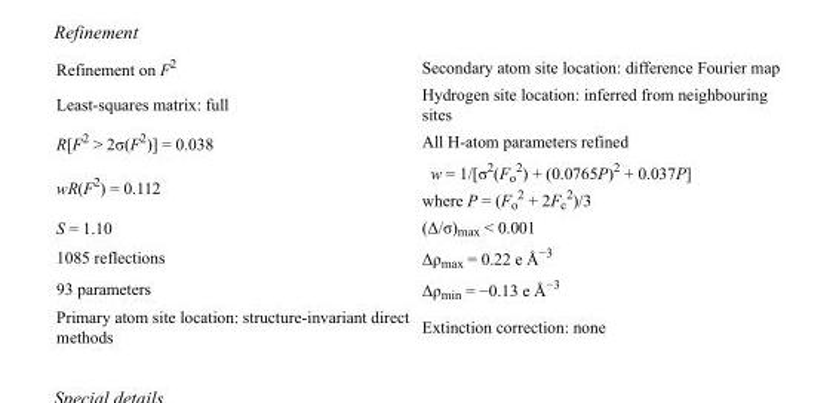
<table><tbody><tr><td>Refinement on F<sup>2</sup></td><td>Secondary atom site location: difference Fourier map</td></tr><tr><td>Least-squares matrix: full</td><td>Hydrogen site location: inferred from neighbouring sites</td></tr><tr><td>R[F<sup>2</sup> &gt; 2σ(F<sup>2</sup>)] = 0.038</td><td>All H-atom parameters refined</td></tr><tr><td>wR(F<sup>2</sup>) = 0.112</td><td>w = 1/[σ<sup>2</sup>(F<sub>o</sub> <sup>2</sup>) + (0.0765P)<sup>2</sup> + 0.037P] where P = (F<sub>o</sub> <sup>2</sup> + 2F<sub>c</sub> <sup>2</sup>)/3</td></tr><tr><td>S = 1.10</td><td>(Δ/σ)<sub>max</sub> &lt; 0.001</td></tr><tr><td>1085 reflections</td><td>Δρ<sub>max</sub> = 0.22 e Å<sup>−3</sup></td></tr><tr><td>93 parameters</td><td>Δρ<sub>min</sub> = −0.13 e Å<sup>−3</sup></td></tr><tr><td>Primary atom site location: structure-invariant direct methods</td><td>Extinction correction: none</td></tr></tbody></table>